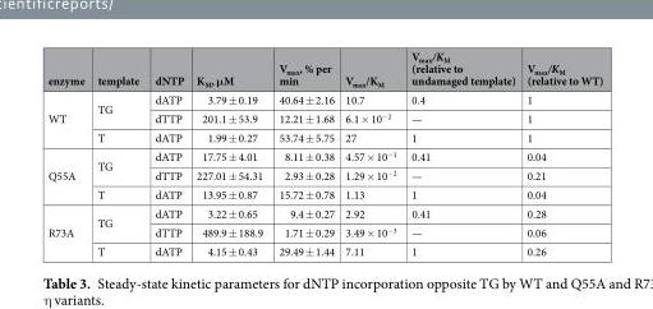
<table><thead><tr><td>enzyme</td><td>template</td><td>dNTP</td><td>K<sub>M</sub>, μM</td><td>V<sub>max</sub>, % per min</td><td>V<sub>max</sub>/K<sub>M</sub></td><td>V<sub>max</sub>/K<sub>M</sub> (relative to undamaged template)</td><td>V<sub>max</sub>/K<sub>M</sub> (relative to WT)</td></tr></thead><tbody><tr><td rowspan="3">WT</td><td rowspan="2">TG</td><td>dATP</td><td>3.79 ± 0.19</td><td>40.64 ± 2.16</td><td>10.7</td><td>0.4</td><td>1</td></tr><tr><td>dTTP</td><td>201.1 ± 53.9</td><td>12.21 ± 1.68</td><td>6.1 × 10<sup>−2</sup></td><td>—</td><td>1</td></tr><tr><td>T</td><td>dATP</td><td>1.99 ± 0.27</td><td>53.74 ± 5.75</td><td>27</td><td>1</td><td>1</td></tr><tr><td rowspan="3">Q55A</td><td rowspan="2">TG</td><td>dATP</td><td>17.75 ± 4.01</td><td>8.11 ± 0.38</td><td>4.57 × 10<sup>−1</sup></td><td>0.41</td><td>0.04</td></tr><tr><td>dTTP</td><td>227.01 ± 54.31</td><td>2.93 ± 0.28</td><td>1.29 × 10<sup>−2</sup></td><td>—</td><td>0.21</td></tr><tr><td>T</td><td>dATP</td><td>13.95 ± 0.87</td><td>15.72 ± 0.78</td><td>1.13</td><td>1</td><td>0.04</td></tr><tr><td rowspan="3">R73A</td><td rowspan="2">TG</td><td>dATP</td><td>3.22 ± 0.65</td><td>9.4 ± 0.27</td><td>2.92</td><td>0.41</td><td>0.28</td></tr><tr><td>dTTP</td><td>489.9 ± 188.9</td><td>1.71 ± 0.29</td><td>3.49 × 10<sup>−3</sup></td><td>—</td><td>0.06</td></tr><tr><td>T</td><td>dATP</td><td>4.15 ± 0.43</td><td>29.49 ± 1.44</td><td>7.11</td><td>1</td><td>0.26</td></tr></tbody></table>